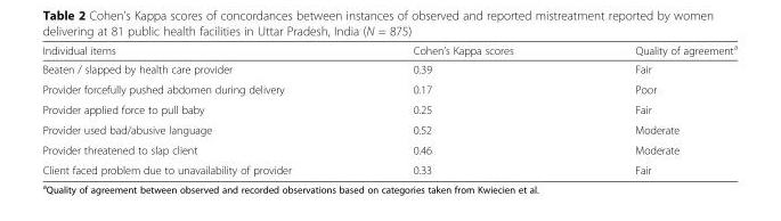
<table><thead><tr><td>Individual items</td><td>Cohen’s Kappa scores</td><td>Quality of agreement<sup>a</sup></td></tr></thead><tbody><tr><td>Beaten / slapped by health care provider</td><td>0.39</td><td>Fair</td></tr><tr><td>Provider forcefully pushed abdomen during delivery</td><td>0.17</td><td>Poor</td></tr><tr><td>Provider applied force to pull baby</td><td>0.25</td><td>Fair</td></tr><tr><td>Provider used bad/abusive language</td><td>0.52</td><td>Moderate</td></tr><tr><td>Provider threatened to slap client</td><td>0.46</td><td>Moderate</td></tr><tr><td>Client faced problem due to unavailability of provider</td><td>0.33</td><td>Fair</td></tr></tbody></table>